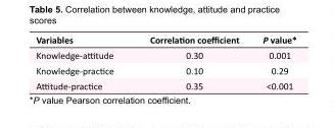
<table><tbody><tr><td>Variables</td><td>Correlation coefficient</td><td>P value*</td></tr><tr><td>Knowledge-attitude</td><td>0.30</td><td>0.001</td></tr><tr><td>Knowledge-practice</td><td>0.10</td><td>0.29</td></tr><tr><td>Attitude-practice</td><td>0.35</td><td>&lt;0.001</td></tr></tbody></table>